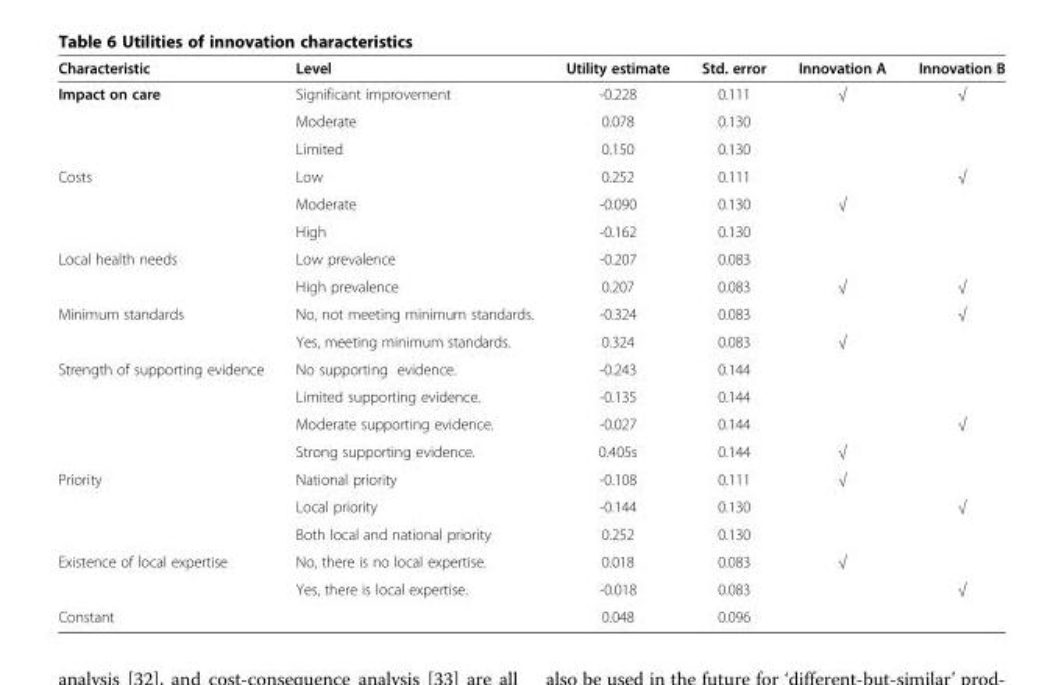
<table><thead><tr><td>Characteristic</td><td>Level</td><td>Utility estimate</td><td>Std. error</td><td>Innovation A</td><td>Innovation B</td></tr></thead><tbody><tr><td rowspan="3">Impact on care</td><td>Significant improvement</td><td>-0.228</td><td>0.111</td><td>√</td><td>√</td></tr><tr><td>Moderate</td><td>0.078</td><td>0.130</td><td></td><td></td></tr><tr><td>Limited</td><td>0.150</td><td>0.130</td><td></td><td></td></tr><tr><td rowspan="3">Costs</td><td>Low</td><td>0.252</td><td>0.111</td><td></td><td>√</td></tr><tr><td>Moderate</td><td>-0.090</td><td>0.130</td><td>√</td><td></td></tr><tr><td>High</td><td>-0.162</td><td>0.130</td><td></td><td></td></tr><tr><td rowspan="2">Local health needs</td><td>Low prevalence</td><td>-0.207</td><td>0.083</td><td></td><td></td></tr><tr><td>High prevalence</td><td>0.207</td><td>0.083</td><td>√</td><td>√</td></tr><tr><td rowspan="2">Minimum standards</td><td>No, not meeting minimum standards.</td><td>-0.324</td><td>0.083</td><td></td><td>√</td></tr><tr><td>Yes, meeting minimum standards.</td><td>0.324</td><td>0.083</td><td>√</td><td></td></tr><tr><td rowspan="4">Strength of supporting evidence</td><td>No supporting evidence.</td><td>-0.243</td><td>0.144</td><td></td><td></td></tr><tr><td>Limited supporting evidence.</td><td>-0.135</td><td>0.144</td><td></td><td></td></tr><tr><td>Moderate supporting evidence.</td><td>-0.027</td><td>0.144</td><td></td><td>√</td></tr><tr><td>Strong supporting evidence.</td><td>0.405s</td><td>0.144</td><td>√</td><td></td></tr><tr><td rowspan="3">Priority</td><td>National priority</td><td>-0.108</td><td>0.111</td><td>√</td><td></td></tr><tr><td>Local priority</td><td>-0.144</td><td>0.130</td><td></td><td>√</td></tr><tr><td>Both local and national priority</td><td>0.252</td><td>0.130</td><td></td><td></td></tr><tr><td rowspan="2">Existence of local expertise</td><td>No, there is no local expertise.</td><td>0.018</td><td>0.083</td><td>√</td><td></td></tr><tr><td>Yes, there is local expertise.</td><td>-0.018</td><td>0.083</td><td></td><td>√</td></tr><tr><td>Constant</td><td></td><td>0.048</td><td>0.096</td><td></td><td></td></tr></tbody></table>